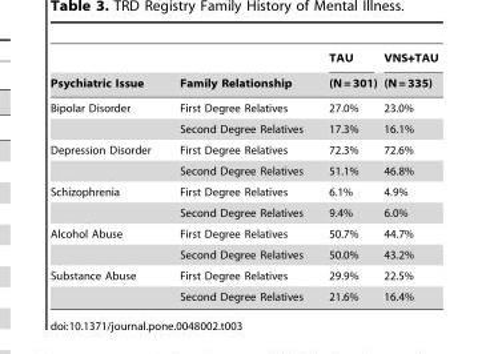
<table><thead><tr><td rowspan="2">Psychiatric Issue</td><td rowspan="2">Family Relationship</td><td rowspan="2">TAU (N = 301)</td><td rowspan="2">VNS+TAU (N = 335)</td></tr><tr></tr></thead><tbody><tr><td rowspan="2">Bipolar Disorder</td><td>First Degree Relatives</td><td>27.0%</td><td>23.0%</td></tr><tr><td>Second Degree Relatives</td><td>17.3%</td><td>16.1%</td></tr><tr><td rowspan="2">Depression Disorder</td><td>First Degree Relatives</td><td>72.3%</td><td>72.6%</td></tr><tr><td>Second Degree Relatives</td><td>51.1%</td><td>46.8%</td></tr><tr><td rowspan="2">Schizophrenia</td><td>First Degree Relatives</td><td>6.1%</td><td>4.9%</td></tr><tr><td>Second Degree Relatives</td><td>9.4%</td><td>6.0%</td></tr><tr><td rowspan="2">Alcohol Abuse</td><td>First Degree Relatives</td><td>50.7%</td><td>44.7%</td></tr><tr><td>Second Degree Relatives</td><td>50.0%</td><td>43.2%</td></tr><tr><td rowspan="2">Substance Abuse</td><td>First Degree Relatives</td><td>29.9%</td><td>22.5%</td></tr><tr><td>Second Degree Relatives</td><td>21.6%</td><td>16.4%</td></tr></tbody></table>